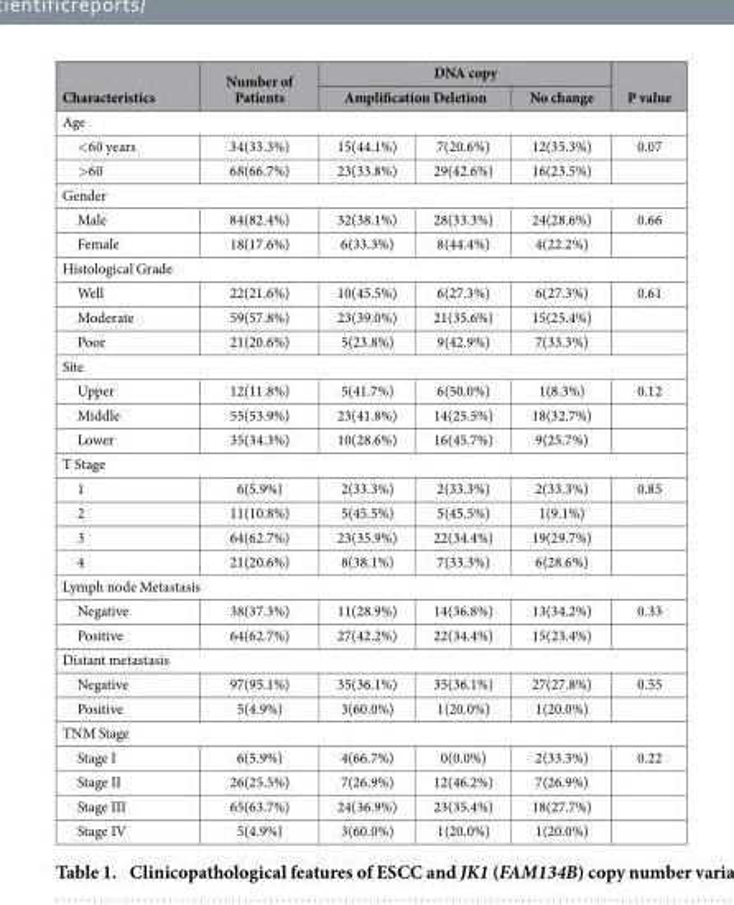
<table><thead><tr><td rowspan="2">Characteristics</td><td rowspan="2">Number of Patients</td><td colspan="3">DNA copy</td><td rowspan="2">P value</td></tr><tr><td colspan="2">Amplification Deletion</td><td>No change</td></tr><tr><td colspan="6">Age</td></tr><tr><td>&lt; 60 years</td><td>34(33.3%)</td><td>15(44.1%)</td><td>7(20.6%)</td><td>12(35.3%)</td><td>0.07</td></tr></thead><tbody><tr><td>&gt; 60</td><td>68(66.7%)</td><td>23(33.8%)</td><td>29(42.6%)</td><td>16(23.5%)</td><td></td></tr><tr><td colspan="6">Gender</td></tr><tr><td>Male</td><td>84(82.4%)</td><td>32(38.1%)</td><td>28(33.3%)</td><td>24(28.6%)</td><td>0.66</td></tr><tr><td>Female</td><td>18(17.6%)</td><td>6(33.3%)</td><td>8(44.4%)</td><td>4(22.2%)</td><td></td></tr><tr><td colspan="6">Histological Grade</td></tr><tr><td>Well</td><td>22(21.6%)</td><td>10(45.5%)</td><td>6(27.3%)</td><td>6(27.3%)</td><td>0.61</td></tr><tr><td>Moderate</td><td>59(57.8%)</td><td>23(39.0%)</td><td>21(35.6%)</td><td>15(25.4%)</td><td></td></tr><tr><td>Poor</td><td>21(20.6%)</td><td>5(23.8%)</td><td>9(42.9%)</td><td>7(33.3%)</td><td></td></tr><tr><td colspan="6">Site</td></tr><tr><td>Upper</td><td>12(11.8%)</td><td>5(41.7%)</td><td>6(50.0%)</td><td>1(8.3%)</td><td>0.12</td></tr><tr><td>Middle</td><td>55(53.9%)</td><td>23(41.8%)</td><td>14(25.5%)</td><td>18(32.7%)</td><td></td></tr><tr><td>Lower</td><td>35(34.3%)</td><td>10(28.6%)</td><td>16(45.7%)</td><td>9(25.7%)</td><td></td></tr><tr><td colspan="6">T Stage</td></tr><tr><td>1</td><td>6(5.9%)</td><td>2(33.3%)</td><td>2(33.3%)</td><td>2(33.3%)</td><td>0.85</td></tr><tr><td>2</td><td>11(10.8%)</td><td>5(45.5%)</td><td>5(45.5%)</td><td>1(9.1%)</td><td></td></tr><tr><td>3</td><td>64(62.7%)</td><td>23(35.9%)</td><td>22(34.4%)</td><td>19(29.7%)</td><td></td></tr><tr><td>4</td><td>21(20.6%)</td><td>8(38.1%)</td><td>7(33.3%)</td><td>6(28.6%)</td><td></td></tr><tr><td colspan="6">Lymph node Metastasis</td></tr><tr><td>Negative</td><td>38(37.3%)</td><td>11(28.9%)</td><td>14(36.8%)</td><td>13(34.2%)</td><td>0.33</td></tr><tr><td>Positive</td><td>64(62.7%)</td><td>27(42.2%)</td><td>22(34.4%)</td><td>15(23.4%)</td><td></td></tr><tr><td colspan="6">Distant metastasis</td></tr><tr><td>Negative</td><td>97(95.1%)</td><td>35(36.1%)</td><td>35(36.1%)</td><td>27(27.8%)</td><td>0.55</td></tr><tr><td>Positive</td><td>5(4.9%)</td><td>3(60.0%)</td><td>1(20.0%)</td><td>1(20.0%)</td><td></td></tr><tr><td colspan="6">TNM Stage</td></tr><tr><td>Stage I</td><td>6(5.9%)</td><td>4(66.7%)</td><td>0(0.0%)</td><td>2(33.3%)</td><td>0.22</td></tr><tr><td>Stage II</td><td>26(25.5%)</td><td>7(26.9%)</td><td>12(46.2%)</td><td>7(26.9%)</td><td></td></tr><tr><td>Stage III</td><td>65(63.7%)</td><td>24(36.9%)</td><td>23(35.4%)</td><td>18(27.7%)</td><td></td></tr><tr><td>Stage IV</td><td>5(4.9%)</td><td>3(60.0%)</td><td>1(20.0%)</td><td>1(20.0%)</td><td></td></tr></tbody></table>